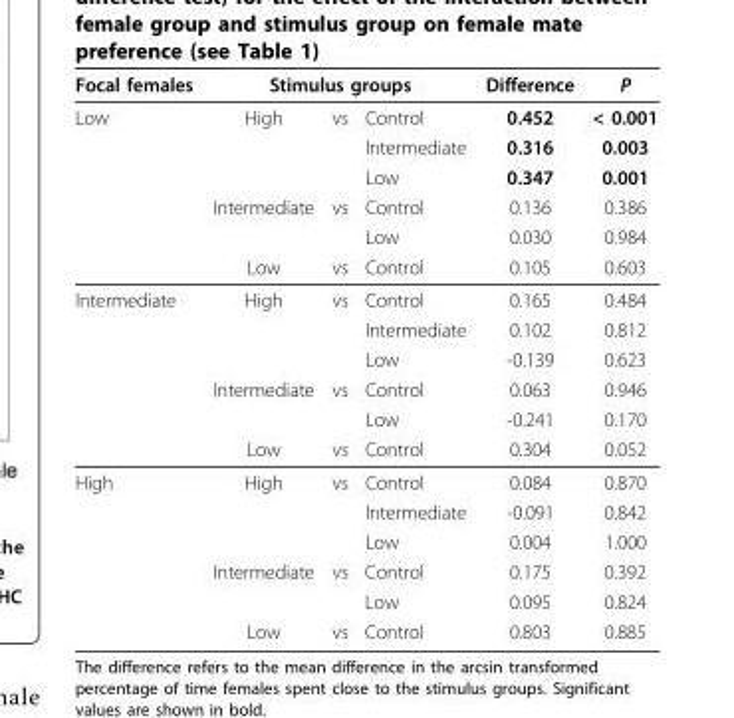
<table><thead><tr><td rowspan="2">Focal females Low</td><td colspan="3">Stimulus groups</td><td rowspan="2">Difference 0.452</td><td rowspan="2">P &lt; 0.001</td></tr><tr><td>High</td><td>vs</td><td>Control</td></tr></thead><tbody><tr><td></td><td></td><td></td><td>Intermediate</td><td>0.316</td><td>0.003</td></tr><tr><td></td><td></td><td></td><td>Low</td><td>0.347</td><td>0.001</td></tr><tr><td></td><td>Intermediate</td><td>vs</td><td>Control</td><td>0.136</td><td>0.386</td></tr><tr><td></td><td></td><td></td><td>Low</td><td>0.030</td><td>0.984</td></tr><tr><td></td><td>Low</td><td>vs</td><td>Control</td><td>0.105</td><td>0.603</td></tr><tr><td rowspan="6">Intermediate</td><td>High</td><td>vs</td><td>Control</td><td>0.165</td><td>0.484</td></tr><tr><td></td><td></td><td>Intermediate</td><td>0.102</td><td>0.812</td></tr><tr><td></td><td></td><td>Low</td><td>-0.139</td><td>0.623</td></tr><tr><td>Intermediate</td><td>vs</td><td>Control</td><td>0.063</td><td>0.946</td></tr><tr><td></td><td></td><td>Low</td><td>-0.241</td><td>0.170</td></tr><tr><td>Low</td><td>vs</td><td>Control</td><td>0.304</td><td>0.052</td></tr><tr><td rowspan="6">High</td><td>High</td><td>vs</td><td>Control</td><td>0.084</td><td>0.870</td></tr><tr><td></td><td></td><td>Intermediate</td><td>-0.091</td><td>0.842</td></tr><tr><td></td><td></td><td>Low</td><td>0.004</td><td>1.000</td></tr><tr><td>Intermediate</td><td>vs</td><td>Control</td><td>0.175</td><td>0.392</td></tr><tr><td></td><td></td><td>Low</td><td>0.095</td><td>0.824</td></tr><tr><td>Low</td><td>vs</td><td>Control</td><td>0.803</td><td>0.885</td></tr></tbody></table>